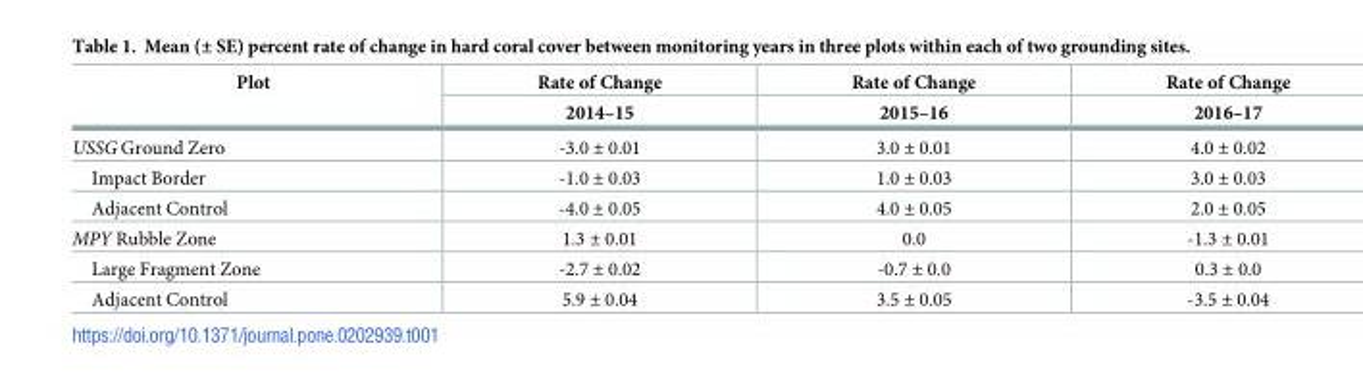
<table><thead><tr><td rowspan="2">Plot</td><td rowspan="2">Rate of Change 2014–15</td><td rowspan="2">Rate of Change 2015–16</td><td rowspan="2">Rate of Change 2016–17</td></tr><tr></tr></thead><tbody><tr><td>USSG Ground Zero</td><td>-3.0 ± 0.01</td><td>3.0 ± 0.01</td><td>4.0 ± 0.02</td></tr><tr><td>Impact Border</td><td>-1.0 ± 0.03</td><td>1.0 ± 0.03</td><td>3.0 ± 0.03</td></tr><tr><td>Adjacent Control</td><td>-4.0 ± 0.05</td><td>4.0 ± 0.05</td><td>2.0 ± 0.05</td></tr><tr><td>MPY Rubble Zone</td><td>1.3 ± 0.01</td><td>0.0</td><td>-1.3 ± 0.01</td></tr><tr><td>Large Fragment Zone</td><td>-2.7 ± 0.02</td><td>-0.7 ± 0.0</td><td>0.3 ± 0.0</td></tr><tr><td>Adjacent Control</td><td>5.9 ± 0.04</td><td>3.5 ± 0.05</td><td>-3.5 ± 0.04</td></tr></tbody></table>